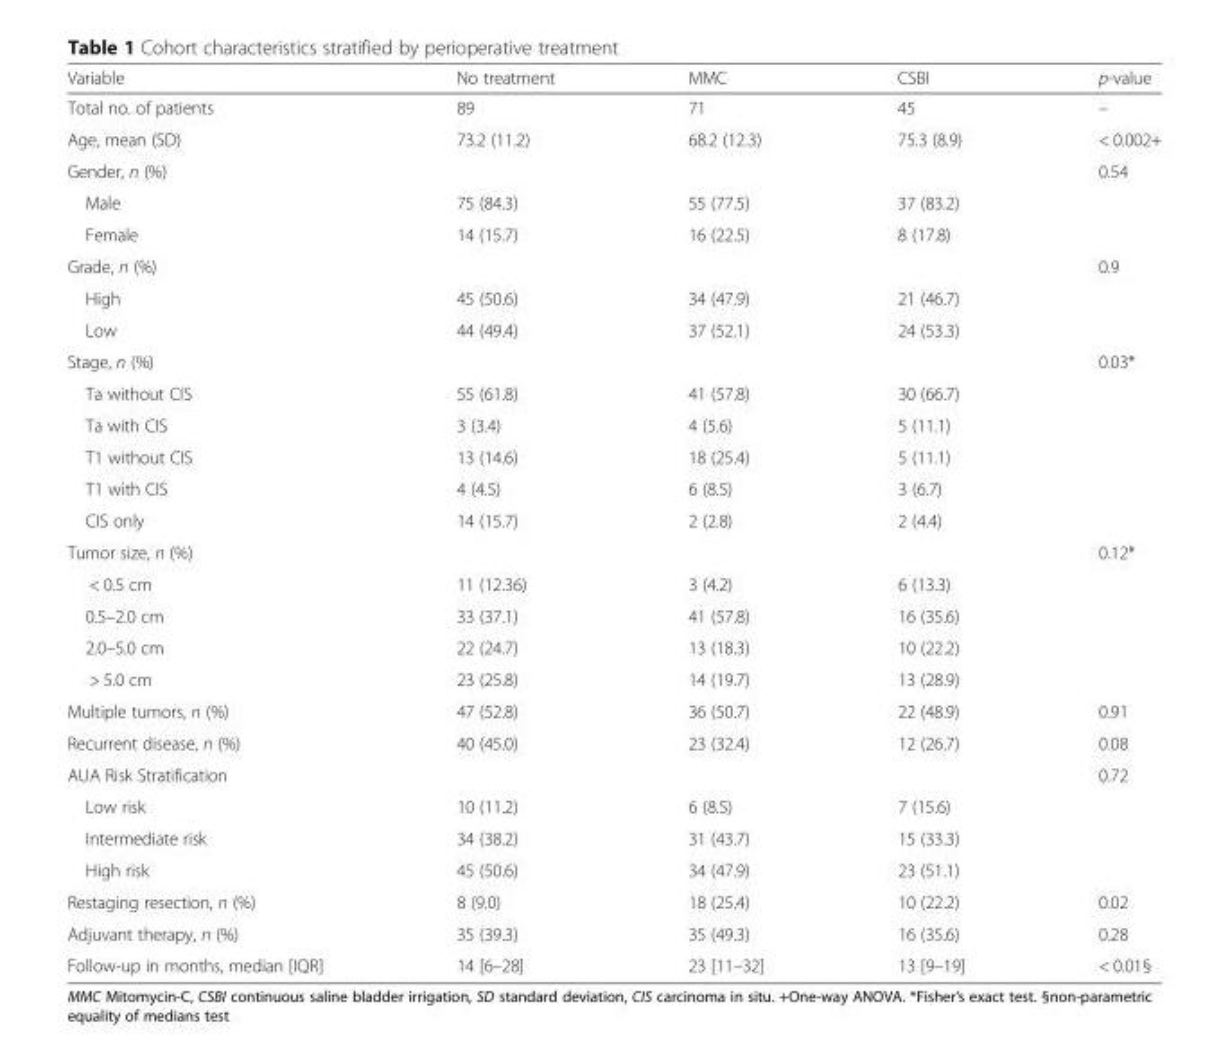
<table><thead><tr><td>Variable</td><td>No treatment</td><td>MMC</td><td>CSBI</td><td>p-value</td></tr></thead><tbody><tr><td>Total no. of patients</td><td>89</td><td>71</td><td>45</td><td>–</td></tr><tr><td>Age, mean (SD)</td><td>73.2 (11.2)</td><td>68.2 (12.3)</td><td>75.3 (8.9)</td><td>&lt; 0.002+</td></tr><tr><td>Gender, n (%)</td><td></td><td></td><td></td><td>0.54</td></tr><tr><td>Male</td><td>75 (84.3)</td><td>55 (77.5)</td><td>37 (83.2)</td><td rowspan="2"></td></tr><tr><td>Female</td><td>14 (15.7)</td><td>16 (22.5)</td><td>8 (17.8)</td></tr><tr><td>Grade, n (%)</td><td></td><td></td><td></td><td>0.9</td></tr><tr><td>High</td><td>45 (50.6)</td><td>34 (47.9)</td><td>21 (46.7)</td><td rowspan="2"></td></tr><tr><td>Low</td><td>44 (49.4)</td><td>37 (52.1)</td><td>24 (53.3)</td></tr><tr><td>Stage, n (%)</td><td></td><td></td><td></td><td>0.03*</td></tr><tr><td>Ta without CIS</td><td>55 (61.8)</td><td>41 (57.8)</td><td>30 (66.7)</td><td rowspan="5"></td></tr><tr><td>Ta with CIS</td><td>3 (3.4)</td><td>4 (5.6)</td><td>5 (11.1)</td></tr><tr><td>T1 without CIS</td><td>13 (14.6)</td><td>18 (25.4)</td><td>5 (11.1)</td></tr><tr><td>T1 with CIS</td><td>4 (4.5)</td><td>6 (8.5)</td><td>3 (6.7)</td></tr><tr><td>CIS only</td><td>14 (15.7)</td><td>2 (2.8)</td><td>2 (4.4)</td></tr><tr><td>Tumor size, n (%)</td><td></td><td></td><td></td><td>0.12*</td></tr><tr><td>&lt; 0.5 cm</td><td>11 (12.36)</td><td>3 (4.2)</td><td>6 (13.3)</td><td rowspan="4"></td></tr><tr><td>0.5–2.0 cm</td><td>33 (37.1)</td><td>41 (57.8)</td><td>16 (35.6)</td></tr><tr><td>2.0–5.0 cm</td><td>22 (24.7)</td><td>13 (18.3)</td><td>10 (22.2)</td></tr><tr><td>&gt; 5.0 cm</td><td>23 (25.8)</td><td>14 (19.7)</td><td>13 (28.9)</td></tr><tr><td>Multiple tumors, n (%)</td><td>47 (52.8)</td><td>36 (50.7)</td><td>22 (48.9)</td><td>0.91</td></tr><tr><td>Recurrent disease, n (%)</td><td>40 (45.0)</td><td>23 (32.4)</td><td>12 (26.7)</td><td>0.08</td></tr><tr><td>AUA Risk Stratification</td><td></td><td></td><td></td><td>0.72</td></tr><tr><td>Low risk</td><td>10 (11.2)</td><td>6 (8.5)</td><td>7 (15.6)</td><td rowspan="3"></td></tr><tr><td>Intermediate risk</td><td>34 (38.2)</td><td>31 (43.7)</td><td>15 (33.3)</td></tr><tr><td>High risk</td><td>45 (50.6)</td><td>34 (47.9)</td><td>23 (51.1)</td></tr><tr><td>Restaging resection, n (%)</td><td>8 (9.0)</td><td>18 (25.4)</td><td>10 (22.2)</td><td>0.02</td></tr><tr><td>Adjuvant therapy, n (%)</td><td>35 (39.3)</td><td>35 (49.3)</td><td>16 (35.6)</td><td>0.28</td></tr><tr><td>Follow-up in months, median [IQR]</td><td>14 [6–28]</td><td>23 [11–32]</td><td>13 [9–19]</td><td>&lt; 0.01§</td></tr></tbody></table>